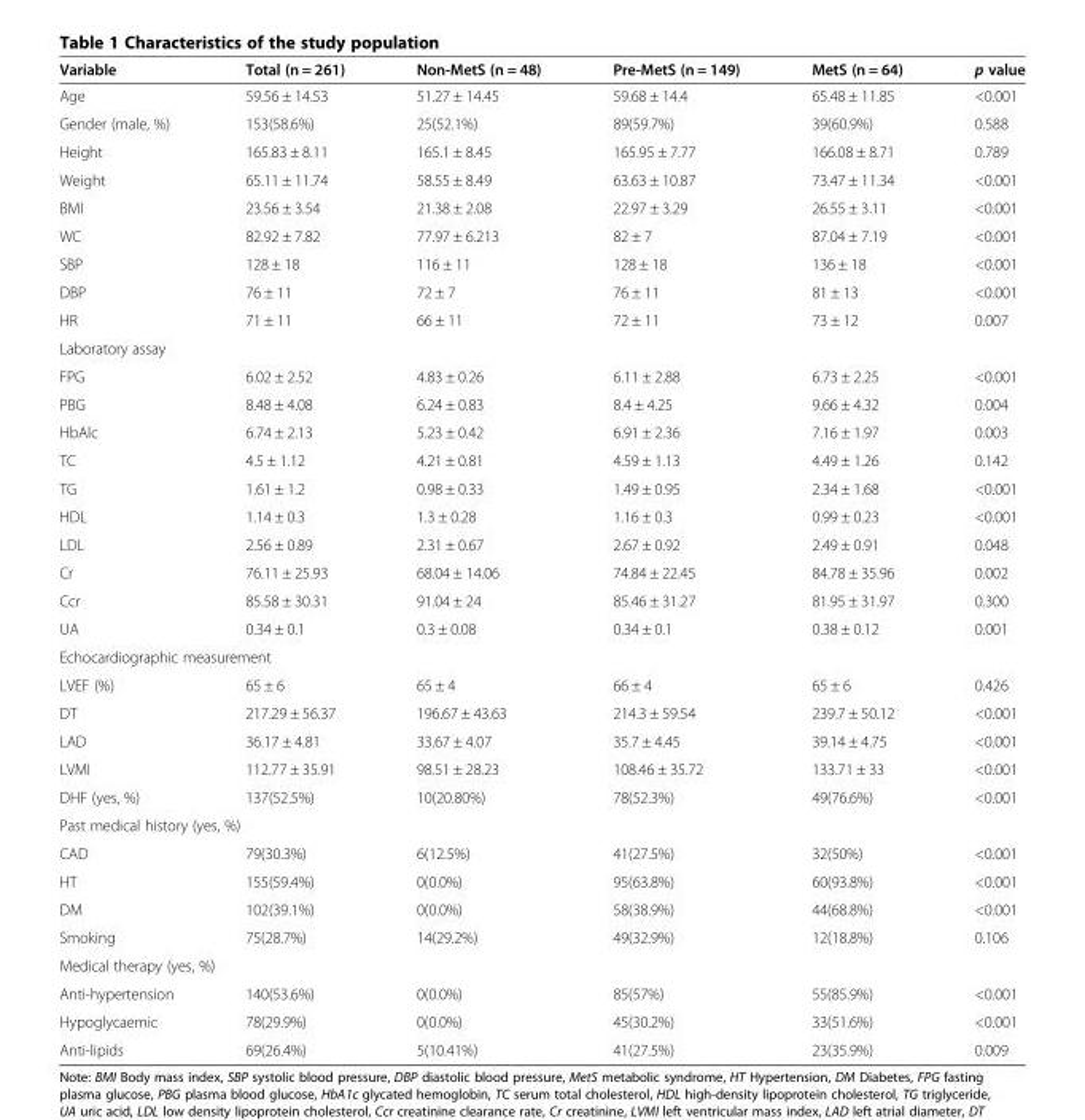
<table><thead><tr><td>Variable</td><td>Total (n = 261)</td><td>Non-MetS (n = 48)</td><td>Pre-MetS (n = 149)</td><td>MetS (n = 64)</td><td>p value</td></tr></thead><tbody><tr><td>Age</td><td>59.56 ± 14.53</td><td>51.27 ± 14.45</td><td>59.68 ± 14.4</td><td>65.48 ± 11.85</td><td>&lt;0.001</td></tr><tr><td>Gender (male, %)</td><td>153(58.6%)</td><td>25(52.1%)</td><td>89(59.7%)</td><td>39(60.9%)</td><td>0.588</td></tr><tr><td>Height</td><td>165.83 ± 8.11</td><td>165.1 ± 8.45</td><td>165.95 ± 7.77</td><td>166.08 ± 8.71</td><td>0.789</td></tr><tr><td>Weight</td><td>65.11 ± 11.74</td><td>58.55 ± 8.49</td><td>63.63 ± 10.87</td><td>73.47 ± 11.34</td><td>&lt;0.001</td></tr><tr><td>BMI</td><td>23.56 ± 3.54</td><td>21.38 ± 2.08</td><td>22.97 ± 3.29</td><td>26.55 ± 3.11</td><td>&lt;0.001</td></tr><tr><td>WC</td><td>82.92 ± 7.82</td><td>77.97 ± 6.213</td><td>82 ± 7</td><td>87.04 ± 7.19</td><td>&lt;0.001</td></tr><tr><td>SBP</td><td>128 ± 18</td><td>116 ± 11</td><td>128 ± 18</td><td>136 ± 18</td><td>&lt;0.001</td></tr><tr><td>DBP</td><td>76 ± 11</td><td>72 ± 7</td><td>76 ± 11</td><td>81 ± 13</td><td>&lt;0.001</td></tr><tr><td>HR</td><td>71 ± 11</td><td>66 ± 11</td><td>72 ± 11</td><td>73 ± 12</td><td>0.007</td></tr><tr><td colspan="6">Laboratory assay</td></tr><tr><td>FPG</td><td>6.02 ± 2.52</td><td>4.83 ± 0.26</td><td>6.11 ± 2.88</td><td>6.73 ± 2.25</td><td>&lt;0.001</td></tr><tr><td>PBG</td><td>8.48 ± 4.08</td><td>6.24 ± 0.83</td><td>8.4 ± 4.25</td><td>9.66 ± 4.32</td><td>0.004</td></tr><tr><td>HbAlc</td><td>6.74 ± 2.13</td><td>5.23 ± 0.42</td><td>6.91 ± 2.36</td><td>7.16 ± 1.97</td><td>0.003</td></tr><tr><td>TC</td><td>4.5 ± 1.12</td><td>4.21 ± 0.81</td><td>4.59 ± 1.13</td><td>4.49 ± 1.26</td><td>0.142</td></tr><tr><td>TG</td><td>1.61 ± 1.2</td><td>0.98 ± 0.33</td><td>1.49 ± 0.95</td><td>2.34 ± 1.68</td><td>&lt;0.001</td></tr><tr><td>HDL</td><td>1.14 ± 0.3</td><td>1.3 ± 0.28</td><td>1.16 ± 0.3</td><td>0.99 ± 0.23</td><td>&lt;0.001</td></tr><tr><td>LDL</td><td>2.56 ± 0.89</td><td>2.31 ± 0.67</td><td>2.67 ± 0.92</td><td>2.49 ± 0.91</td><td>0.048</td></tr><tr><td>Cr</td><td>76.11 ± 25.93</td><td>68.04 ± 14.06</td><td>74.84 ± 22.45</td><td>84.78 ± 35.96</td><td>0.002</td></tr><tr><td>Ccr</td><td>85.58 ± 30.31</td><td>91.04 ± 24</td><td>85.46 ± 31.27</td><td>81.95 ± 31.97</td><td>0.300</td></tr><tr><td>UA</td><td>0.34 ± 0.1</td><td>0.3 ± 0.08</td><td>0.34 ± 0.1</td><td>0.38 ± 0.12</td><td>0.001</td></tr><tr><td colspan="6">Echocardiographic measurement</td></tr><tr><td>LVEF (%)</td><td>65 ± 6</td><td>65 ± 4</td><td>66 ± 4</td><td>65 ± 6</td><td>0.426</td></tr><tr><td>DT</td><td>217.29 ± 56.37</td><td>196.67 ± 43.63</td><td>214.3 ± 59.54</td><td>239.7 ± 50.12</td><td>&lt;0.001</td></tr><tr><td>LAD</td><td>36.17 ± 4.81</td><td>33.67 ± 4.07</td><td>35.7 ± 4.45</td><td>39.14 ± 4.75</td><td>&lt;0.001</td></tr><tr><td>LVMI</td><td>112.77 ± 35.91</td><td>98.51 ± 28.23</td><td>108.46 ± 35.72</td><td>133.71 ± 33</td><td>&lt;0.001</td></tr><tr><td>DHF (yes, %)</td><td>137(52.5%)</td><td>10(20.80%)</td><td>78(52.3%)</td><td>49(76.6%)</td><td>&lt;0.001</td></tr><tr><td colspan="6">Past medical history (yes, %)</td></tr><tr><td>CAD</td><td>79(30.3%)</td><td>6(12.5%)</td><td>41(27.5%)</td><td>32(50%)</td><td>&lt;0.001</td></tr><tr><td>HT</td><td>155(59.4%)</td><td>0(0.0%)</td><td>95(63.8%)</td><td>60(93.8%)</td><td>&lt;0.001</td></tr><tr><td>DM</td><td>102(39.1%)</td><td>0(0.0%)</td><td>58(38.9%)</td><td>44(68.8%)</td><td>&lt;0.001</td></tr><tr><td>Smoking</td><td>75(28.7%)</td><td>14(29.2%)</td><td>49(32.9%)</td><td>12(18.8%)</td><td>0.106</td></tr><tr><td colspan="6">Medical therapy (yes, %)</td></tr><tr><td>Anti-hypertension</td><td>140(53.6%)</td><td>0(0.0%)</td><td>85(57%)</td><td>55(85.9%)</td><td>&lt;0.001</td></tr><tr><td>Hypoglycaemic</td><td>78(29.9%)</td><td>0(0.0%)</td><td>45(30.2%)</td><td>33(51.6%)</td><td>&lt;0.001</td></tr><tr><td>Anti-lipids</td><td>69(26.4%)</td><td>5(10.41%)</td><td>41(27.5%)</td><td>23(35.9%)</td><td>0.009</td></tr></tbody></table>